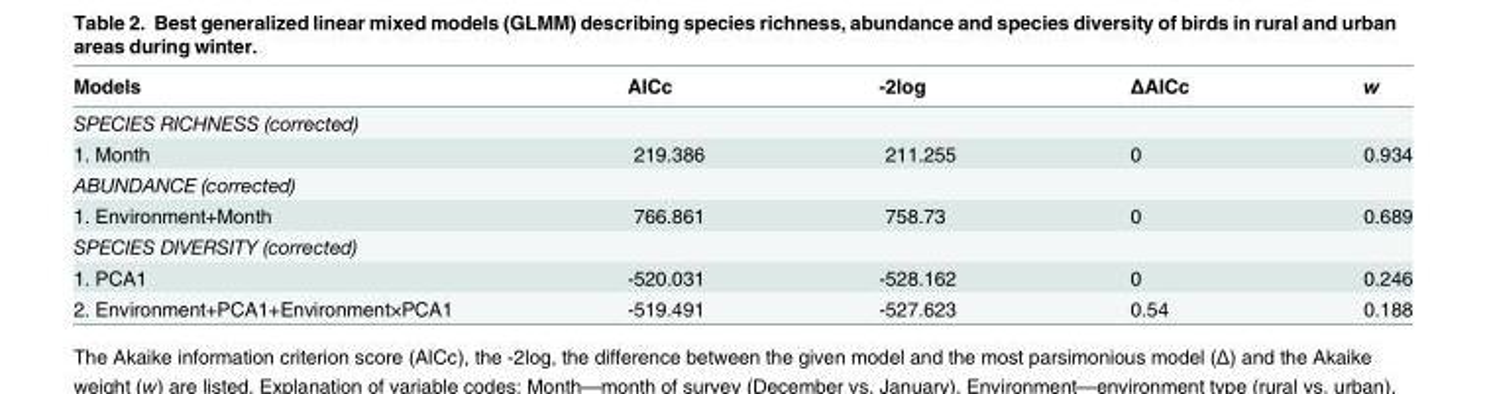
<table><thead><tr><td>Models</td><td>AICc</td><td>-2log</td><td>ΔAICc</td><td>w</td></tr></thead><tbody><tr><td colspan="5">SPECIES RICHNESS (corrected)</td></tr><tr><td>1. Month</td><td>219.386</td><td>211.255</td><td>0</td><td>0.934</td></tr><tr><td colspan="5">ABUNDANCE (corrected)</td></tr><tr><td>1. Environment+Month</td><td>766.861</td><td>758.73</td><td>0</td><td>0.689</td></tr><tr><td colspan="5">SPECIES DIVERSITY (corrected)</td></tr><tr><td>1. PCA1</td><td>-520.031</td><td>-528.162</td><td>0</td><td>0.246</td></tr><tr><td>2. Environment+PCA1+Environment×PCA1</td><td>-519.491</td><td>-527.623</td><td>0.54</td><td>0.188</td></tr></tbody></table>